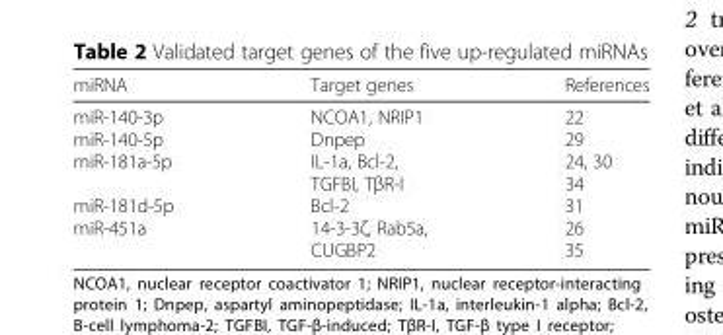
<table><thead><tr><td>miRNA</td><td>Target genes</td><td>References</td></tr></thead><tbody><tr><td>miR-140-3p miR-140-5p miR-181a-5p miR-181d-5p miR-451a</td><td>NCOA1, NRIP1 Dnpep IL-1a, Bcl-2, TGFBI, TβR-I Bcl-2 14-3-3ζ, Rab5a, CUGBP2</td><td>22 29 24, 30 34 31 26 35</td></tr></tbody></table>